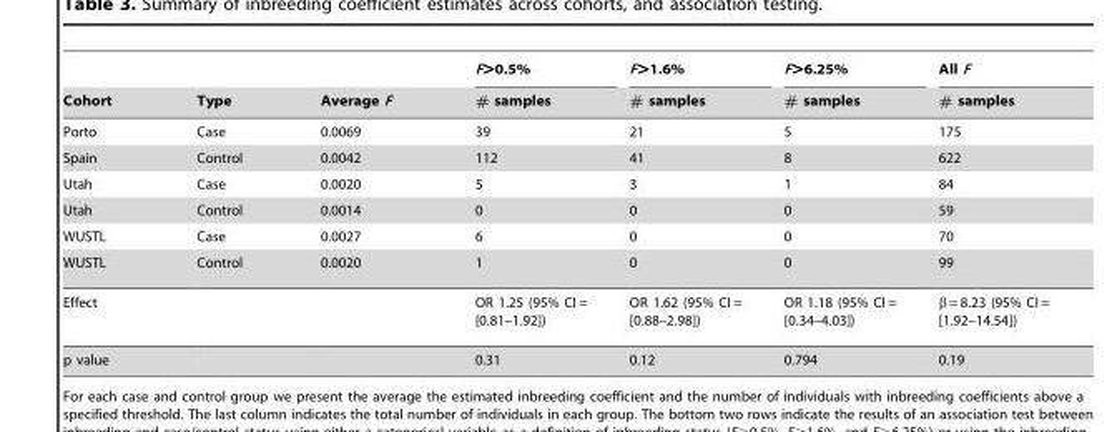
<table><thead><tr><td rowspan="2">Cohort</td><td rowspan="2">Type</td><td rowspan="2">Average F</td><td rowspan="2">F&gt;0.5% # samples</td><td rowspan="2">F&gt;1.6% # samples</td><td rowspan="2">F&gt;6.25% # samples</td><td rowspan="2">All F # samples</td></tr><tr></tr></thead><tbody><tr><td>Porto</td><td>Case</td><td>0.0069</td><td>39</td><td>21</td><td>5</td><td>175</td></tr><tr><td>Spain</td><td>Control</td><td>0.0042</td><td>112</td><td>41</td><td>8</td><td>622</td></tr><tr><td>Utah</td><td>Case</td><td>0.0020</td><td>5</td><td>3</td><td>1</td><td>84</td></tr><tr><td>Utah</td><td>Control</td><td>0.0014</td><td>0</td><td>0</td><td>0</td><td>59</td></tr><tr><td>WUSTL</td><td>Case</td><td>0.0027</td><td>6</td><td>0</td><td>0</td><td>70</td></tr><tr><td>WUSTL</td><td>Control</td><td>0.0020</td><td>1</td><td>0</td><td>0</td><td>99</td></tr><tr><td>Effect</td><td></td><td></td><td>OR 1.25 (95% CI = [0.81–1.92])</td><td>OR 1.62 (95% CI = [0.88–2.98])</td><td>OR 1.18 (95% CI = [0.34–4.03])</td><td>β = 8.23 (95% CI = [1.92–14.54])</td></tr><tr><td>p value</td><td></td><td></td><td>0.31</td><td>0.12</td><td>0.794</td><td>0.19</td></tr></tbody></table>